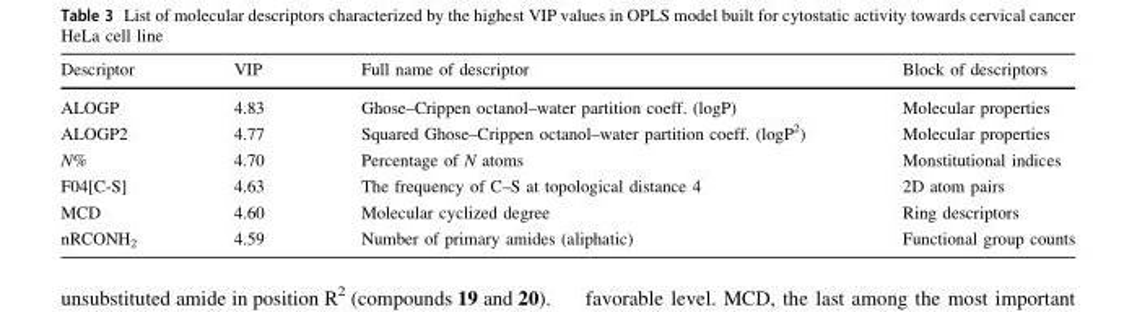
<table><thead><tr><td>Descriptor</td><td>VIP</td><td>Full name of descriptor</td><td>Block of descriptors</td></tr></thead><tbody><tr><td>ALOGP</td><td>4.83</td><td>Ghose–Crippen octanol–water partition coeff. (logP)</td><td>Molecular properties</td></tr><tr><td>ALOGP2</td><td>4.77</td><td>Squared Ghose–Crippen octanol–water partition coeff. (logP<sup>2</sup>)</td><td>Molecular properties</td></tr><tr><td>N%</td><td>4.70</td><td>Percentage of N atoms</td><td>Monstitutional indices</td></tr><tr><td>F04[C-S]</td><td>4.63</td><td>The frequency of C–S at topological distance 4</td><td>2D atom pairs</td></tr><tr><td>MCD</td><td>4.60</td><td>Molecular cyclized degree</td><td>Ring descriptors</td></tr><tr><td>nRCONH<sub>2</sub></td><td>4.59</td><td>Number of primary amides (aliphatic)</td><td>Functional group counts</td></tr></tbody></table>